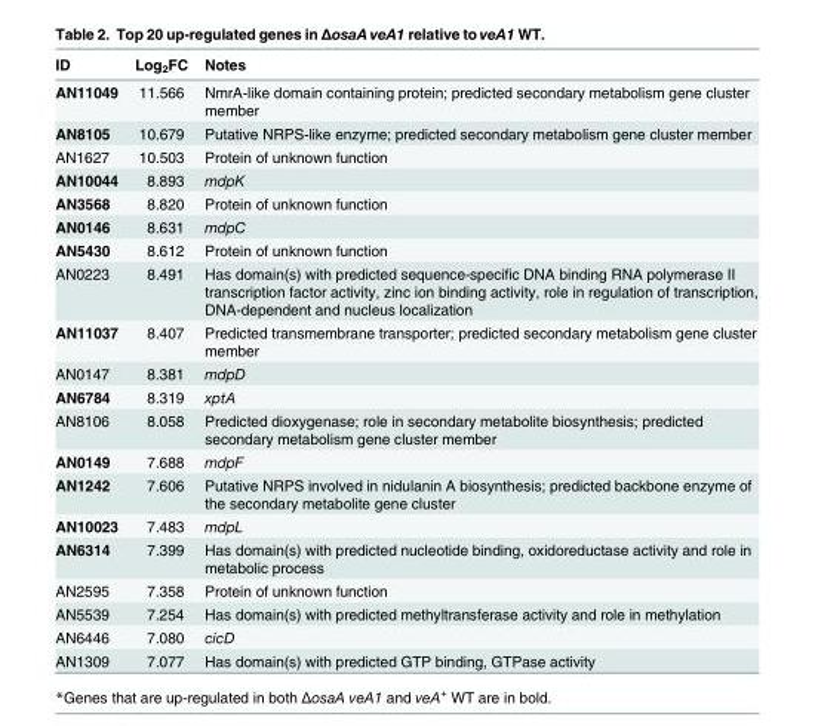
<table><thead><tr><td>ID</td><td>Log<sub>2</sub>FC</td><td>Notes</td></tr></thead><tbody><tr><td>AN11049</td><td>11.566</td><td>NmrA-like domain containing protein; predicted secondary metabolism gene cluster member</td></tr><tr><td>AN8105</td><td>10.679</td><td>Putative NRPS-like enzyme; predicted secondary metabolism gene cluster member</td></tr><tr><td>AN1627</td><td>10.503</td><td>Protein of unknown function</td></tr><tr><td>AN10044</td><td>8.893</td><td>mdpK</td></tr><tr><td>AN3568</td><td>8.820</td><td>Protein of unknown function</td></tr><tr><td>AN0146</td><td>8.631</td><td>mdpC</td></tr><tr><td>AN5430</td><td>8.612</td><td>Protein of unknown function</td></tr><tr><td>AN0223</td><td>8.491</td><td>Has domain(s) with predicted sequence-specific DNA binding RNA polymerase II transcription factor activity, zinc ion binding activity, role in regulation of transcription, DNA-dependent and nucleus localization</td></tr><tr><td>AN11037</td><td>8.407</td><td>Predicted transmembrane transporter; predicted secondary metabolism gene cluster member</td></tr><tr><td>AN0147</td><td>8.381</td><td>mdpD</td></tr><tr><td>AN6784</td><td>8.319</td><td>xptA</td></tr><tr><td>AN8106</td><td>8.058</td><td>Predicted dioxygenase; role in secondary metabolite biosynthesis; predicted secondary metabolism gene cluster member</td></tr><tr><td>AN0149</td><td>7.688</td><td>mdpF</td></tr><tr><td>AN1242</td><td>7.606</td><td>Putative NRPS involved in nidulanin A biosynthesis; predicted backbone enzyme of the secondary metabolite gene cluster</td></tr><tr><td>AN10023</td><td>7.483</td><td>mdpL</td></tr><tr><td>AN6314</td><td>7.399</td><td>Has domain(s) with predicted nucleotide binding, oxidoreductase activity and role in metabolic process</td></tr><tr><td>AN2595</td><td>7.358</td><td>Protein of unknown function</td></tr><tr><td>AN5539</td><td>7.254</td><td>Has domain(s) with predicted methyltransferase activity and role in methylation</td></tr><tr><td>AN6446</td><td>7.080</td><td>cicD</td></tr><tr><td>AN1309</td><td>7.077</td><td>Has domain(s) with predicted GTP binding, GTPase activity</td></tr></tbody></table>